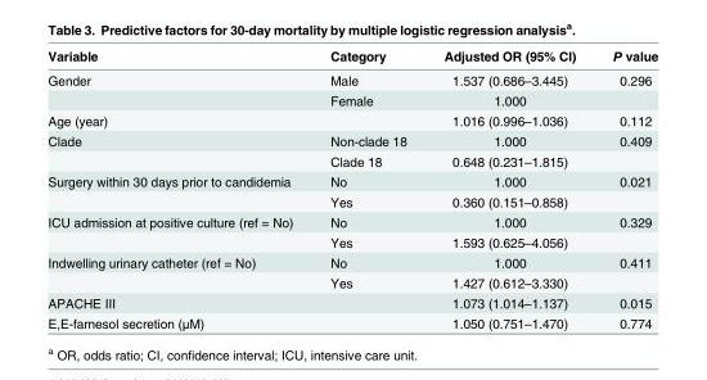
<table><thead><tr><td>Variable</td><td>Category</td><td>Adjusted OR (95% CI)</td><td>P value</td></tr></thead><tbody><tr><td rowspan="2">Gender</td><td>Male</td><td>1.537 (0.686–3.445)</td><td>0.296</td></tr><tr><td>Female</td><td>1.000</td><td></td></tr><tr><td>Age (year)</td><td></td><td>1.016 (0.996–1.036)</td><td>0.112</td></tr><tr><td rowspan="2">Clade</td><td>Non-clade 18</td><td>1.000</td><td>0.409</td></tr><tr><td>Clade 18</td><td>0.648 (0.231–1.815)</td><td></td></tr><tr><td rowspan="2">Surgery within 30 days prior to candidemia</td><td>No</td><td>1.000</td><td>0.021</td></tr><tr><td>Yes</td><td>0.360 (0.151–0.858)</td><td></td></tr><tr><td rowspan="2">ICU admission at positive culture (ref = No)</td><td>No</td><td>1.000</td><td>0.329</td></tr><tr><td>Yes</td><td>1.593 (0.625–4.056)</td><td></td></tr><tr><td rowspan="2">Indwelling urinary catheter (ref = No)</td><td>No</td><td>1.000</td><td>0.411</td></tr><tr><td>Yes</td><td>1.427 (0.612–3.330)</td><td></td></tr><tr><td>APACHE III</td><td></td><td>1.073 (1.014–1.137)</td><td>0.015</td></tr><tr><td>E,E-farnesol secretion (μM)</td><td></td><td>1.050 (0.751–1.470)</td><td>0.774</td></tr></tbody></table>